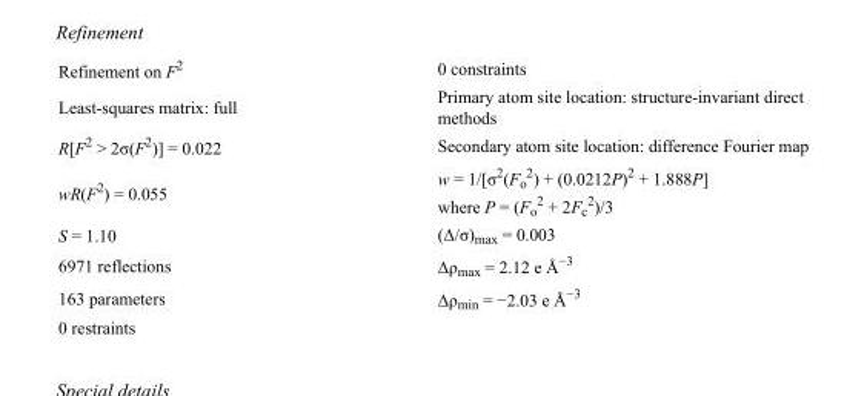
<table><tbody><tr><td>Refinement on F<sup>2</sup></td><td>0 constraints</td></tr><tr><td>Least-squares matrix: full</td><td>Primary atom site location: structure-invariant direct methods</td></tr><tr><td>R[F<sup>2</sup> &gt; 2σ(F<sup>2</sup>)] = 0.022</td><td>Secondary atom site location: difference Fourier map</td></tr><tr><td>wR(F<sup>2</sup>) = 0.055</td><td>w = 1/[σ<sup>2</sup>(F<sub>o</sub> <sup>2</sup>) + (0.0212P)<sup>2</sup> + 1.888P] where P = (F<sub>o</sub> <sup>2</sup> + 2F<sub>c</sub> <sup>2</sup>)/3</td></tr><tr><td>S = 1.10</td><td>(Δ/σ)<sub>max</sub> = 0.003</td></tr><tr><td>6971 reflections</td><td>Δρ<sub>max</sub> = 2.12 e Å<sup>−3</sup></td></tr><tr><td>163 parameters</td><td>Δρ<sub>min</sub> = −2.03 e Å<sup>−3</sup></td></tr><tr><td>0 restraints</td><td></td></tr></tbody></table>